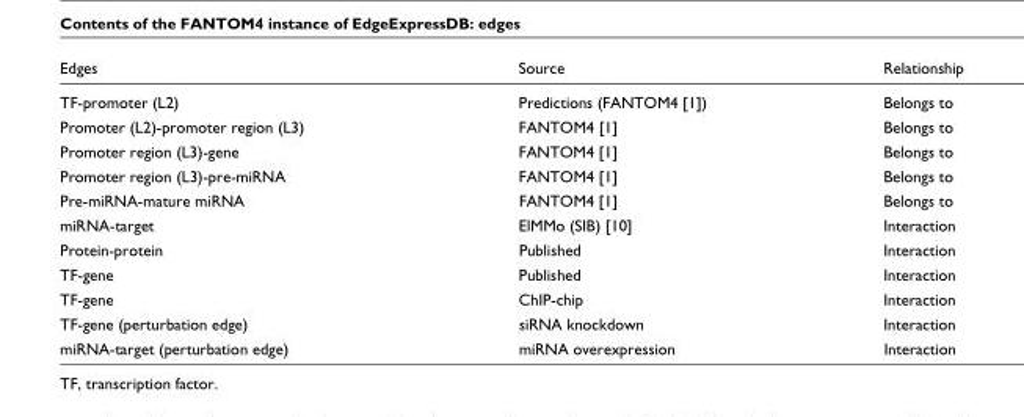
<table><thead><tr><td>Edges</td><td>Source</td><td>Relationship</td></tr></thead><tbody><tr><td>TF-promoter (L2)</td><td>Predictions (FANTOM4 [1])</td><td>Belongs to</td></tr><tr><td>Promoter (L2)-promoter region (L3)</td><td>FANTOM4 [1]</td><td>Belongs to</td></tr><tr><td>Promoter region (L3)-gene</td><td>FANTOM4 [1]</td><td>Belongs to</td></tr><tr><td>Promoter region (L3)-pre-miRNA</td><td>FANTOM4 [1]</td><td>Belongs to</td></tr><tr><td>Pre-miRNA-mature miRNA</td><td>FANTOM4 [1]</td><td>Belongs to</td></tr><tr><td>miRNA-target</td><td>ElMMo (SIB) [10]</td><td>Interaction</td></tr><tr><td>Protein-protein</td><td>Published</td><td>Interaction</td></tr><tr><td>TF-gene</td><td>Published</td><td>Interaction</td></tr><tr><td>TF-gene</td><td>ChIP-chip</td><td>Interaction</td></tr><tr><td>TF-gene (perturbation edge)</td><td>siRNA knockdown</td><td>Interaction</td></tr><tr><td>miRNA-target (perturbation edge)</td><td>miRNA overexpression</td><td>Interaction</td></tr></tbody></table>